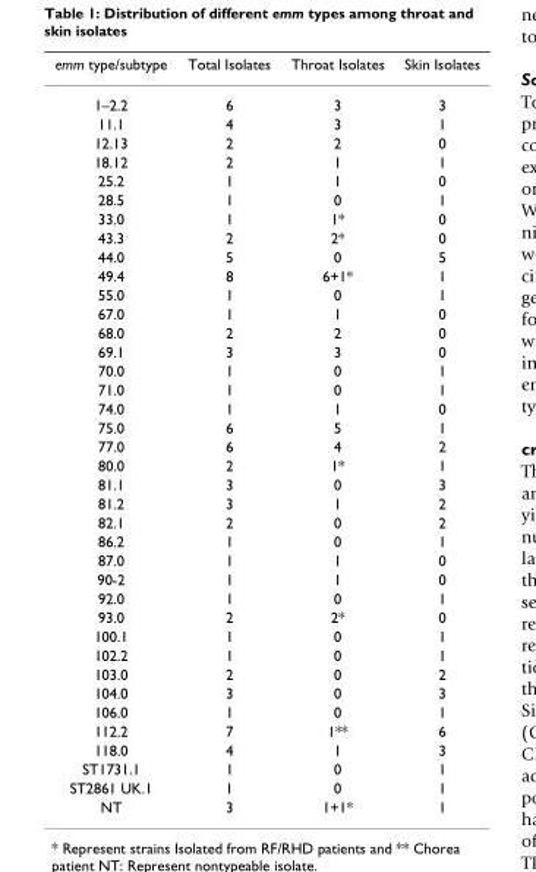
<table><thead><tr><td>emm type/subtype</td><td>Total Isolates</td><td>Throat Isolates</td><td>Skin Isolates</td></tr></thead><tbody><tr><td>1–2.2</td><td>6</td><td>3</td><td>3</td></tr><tr><td>11.1</td><td>4</td><td>3</td><td>1</td></tr><tr><td>12.13</td><td>2</td><td>2</td><td>0</td></tr><tr><td>18.12</td><td>2</td><td>1</td><td>1</td></tr><tr><td>25.2</td><td>1</td><td>1</td><td>0</td></tr><tr><td>28.5</td><td>1</td><td>0</td><td>1</td></tr><tr><td>33.0</td><td>1</td><td>1*</td><td>0</td></tr><tr><td>43.3</td><td>2</td><td>2*</td><td>0</td></tr><tr><td>44.0</td><td>5</td><td>0</td><td>5</td></tr><tr><td>49.4</td><td>8</td><td>6+1*</td><td>1</td></tr><tr><td>55.0</td><td>1</td><td>0</td><td>1</td></tr><tr><td>67.0</td><td>1</td><td>1</td><td>0</td></tr><tr><td>68.0</td><td>2</td><td>2</td><td>0</td></tr><tr><td>69.1</td><td>3</td><td>3</td><td>0</td></tr><tr><td>70.0</td><td>1</td><td>0</td><td>1</td></tr><tr><td>71.0</td><td>1</td><td>0</td><td>1</td></tr><tr><td>74.0</td><td>1</td><td>1</td><td>0</td></tr><tr><td>75.0</td><td>6</td><td>5</td><td>1</td></tr><tr><td>77.0</td><td>6</td><td>4</td><td>2</td></tr><tr><td>80.0</td><td>2</td><td>1*</td><td>1</td></tr><tr><td>81.1</td><td>3</td><td>0</td><td>3</td></tr><tr><td>81.2</td><td>3</td><td>1</td><td>2</td></tr><tr><td>82.1</td><td>2</td><td>0</td><td>2</td></tr><tr><td>86.2</td><td>1</td><td>0</td><td>1</td></tr><tr><td>87.0</td><td>1</td><td>1</td><td>0</td></tr><tr><td>90-2</td><td>1</td><td>1</td><td>0</td></tr><tr><td>92.0</td><td>1</td><td>0</td><td>1</td></tr><tr><td>93.0</td><td>2</td><td>2*</td><td>0</td></tr><tr><td>100.1</td><td>1</td><td>0</td><td>1</td></tr><tr><td>102.2</td><td>1</td><td>0</td><td>1</td></tr><tr><td>103.0</td><td>2</td><td>0</td><td>2</td></tr><tr><td>104.0</td><td>3</td><td>0</td><td>3</td></tr><tr><td>106.0</td><td>1</td><td>0</td><td>1</td></tr><tr><td>112.2</td><td>7</td><td>1**</td><td>6</td></tr><tr><td>118.0</td><td>4</td><td>1</td><td>3</td></tr><tr><td>ST1731.1</td><td>1</td><td>0</td><td>1</td></tr><tr><td>ST2861 UK.1</td><td>1</td><td>0</td><td>1</td></tr><tr><td>NT</td><td>3</td><td>1+1*</td><td>1</td></tr></tbody></table>